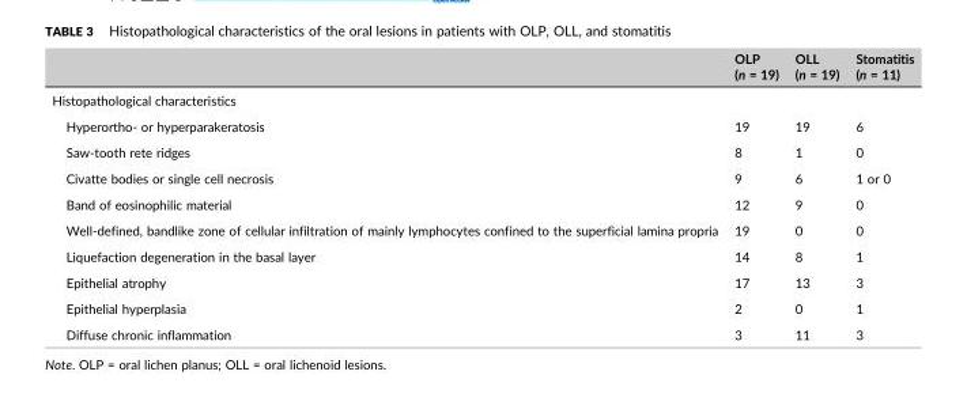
<table><thead><tr><td></td><td>OLP (n = 19)</td><td>OLL (n = 19)</td><td>Stomatitis (n = 11)</td></tr></thead><tbody><tr><td colspan="4">Histopathological characteristics</td></tr><tr><td>Hyperortho‐ or hyperparakeratosis</td><td>19</td><td>19</td><td>6</td></tr><tr><td>Saw‐tooth rete ridges</td><td>8</td><td>1</td><td>0</td></tr><tr><td>Civatte bodies or single cell necrosis</td><td>9</td><td>6</td><td>1 or 0</td></tr><tr><td>Band of eosinophilic material</td><td>12</td><td>9</td><td>0</td></tr><tr><td>Well‐defined, bandlike zone of cellular infiltration of mainly lymphocytes confined to the superficial lamina propria</td><td>19</td><td>0</td><td>0</td></tr><tr><td>Liquefaction degeneration in the basal layer</td><td>14</td><td>8</td><td>1</td></tr><tr><td>Epithelial atrophy</td><td>17</td><td>13</td><td>3</td></tr><tr><td>Epithelial hyperplasia</td><td>2</td><td>0</td><td>1</td></tr><tr><td>Diffuse chronic inflammation</td><td>3</td><td>11</td><td>3</td></tr></tbody></table>